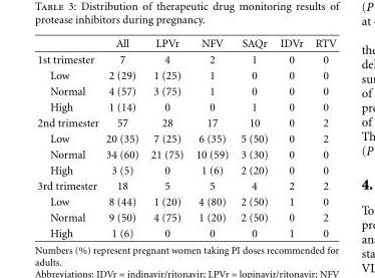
<table><thead><tr><td></td><td>All</td><td>LPVr</td><td>NFV</td><td>SAQr</td><td>IDVr</td><td>RTV</td></tr></thead><tbody><tr><td>1st trimester</td><td>7</td><td>4</td><td>2</td><td>1</td><td>0</td><td>0</td></tr><tr><td>Low</td><td>2 (29)</td><td>1 (25)</td><td>1</td><td>0</td><td>0</td><td>0</td></tr><tr><td>Normal</td><td>4 (57)</td><td>3 (75)</td><td>1</td><td>0</td><td>0</td><td>0</td></tr><tr><td>High</td><td>1 (14)</td><td>0</td><td>0</td><td>1</td><td>0</td><td>0</td></tr><tr><td>2nd trimester</td><td>57</td><td>28</td><td>17</td><td>10</td><td>0</td><td>2</td></tr><tr><td>Low</td><td>20 (35)</td><td>7 (25)</td><td>6 (35)</td><td>5 (50)</td><td>0</td><td>2</td></tr><tr><td>Normal</td><td>34 (60)</td><td>21 (75)</td><td>10 (59)</td><td>3 (30)</td><td>0</td><td>0</td></tr><tr><td>High</td><td>3 (5)</td><td>0</td><td>1 (6)</td><td>2 (20)</td><td>0</td><td>0</td></tr><tr><td>3rd trimester</td><td>18</td><td>5</td><td>5</td><td>4</td><td>2</td><td>2</td></tr><tr><td>Low</td><td>8 (44)</td><td>1 (20)</td><td>4 (80)</td><td>2 (50)</td><td>1</td><td>0</td></tr><tr><td>Normal</td><td>9 (50)</td><td>4 (75)</td><td>1 (20)</td><td>2 (50)</td><td>0</td><td>2</td></tr><tr><td>High</td><td>1 (6)</td><td>0</td><td>0</td><td>0</td><td>1</td><td>0</td></tr></tbody></table>